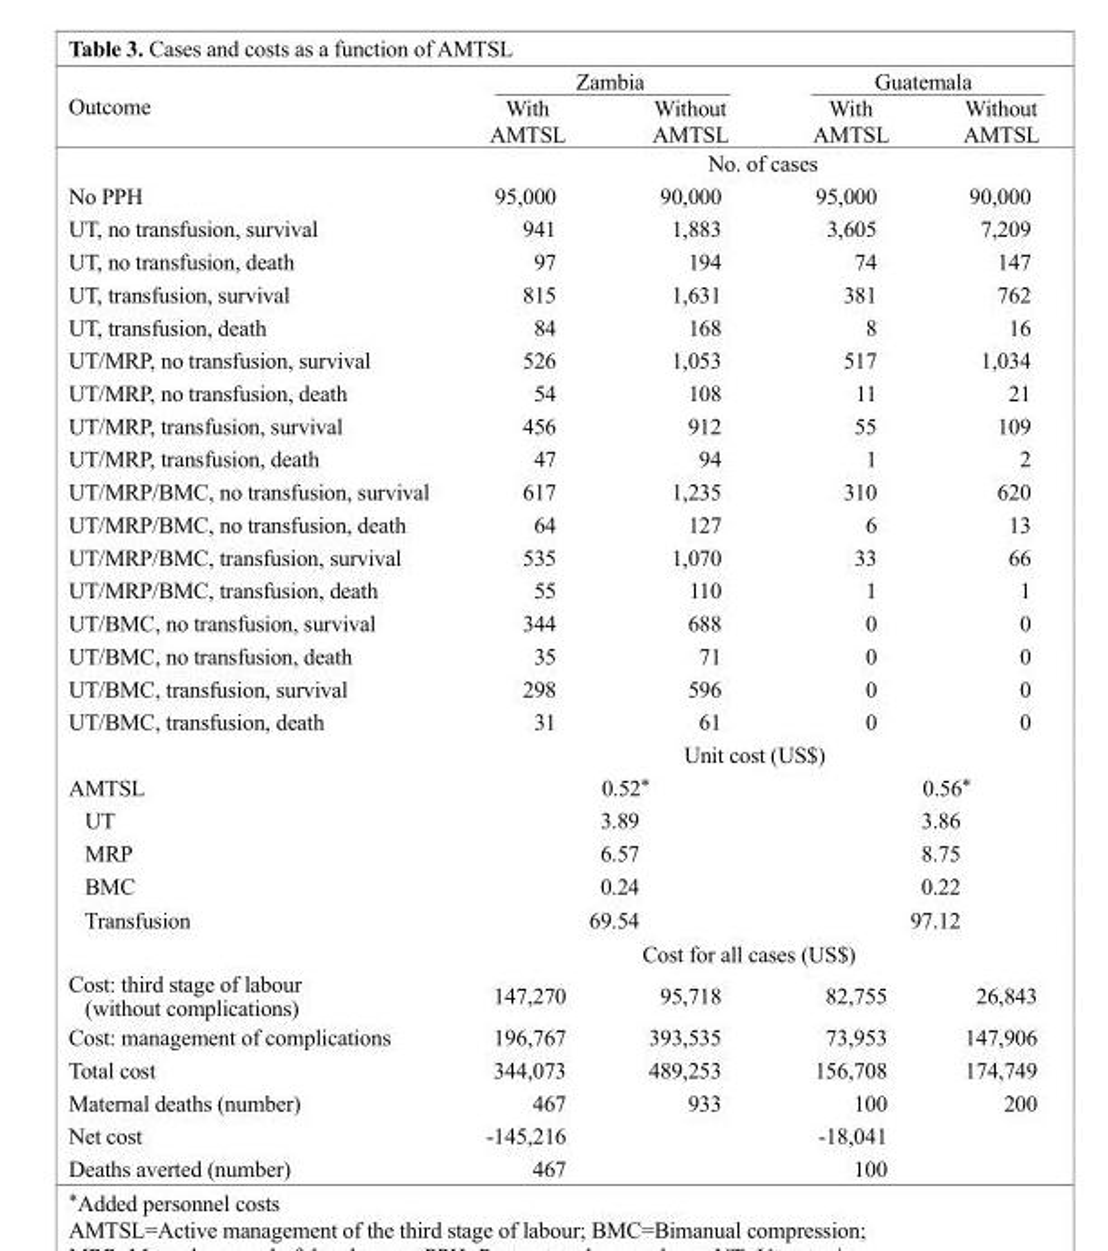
<table><thead><tr><td rowspan="2">Outcome</td><td colspan="2">Zambia</td><td colspan="2">Guatemala</td></tr><tr><td>With AMTSL</td><td>Without AMTSL</td><td>With AMTSL</td><td>Without AMTSL</td></tr></thead><tbody><tr><td></td><td colspan="4">No. of cases</td></tr><tr><td>No PPH</td><td>95,000</td><td>90,000</td><td>95,000</td><td>90,000</td></tr><tr><td>UT, no transfusion, survival</td><td>941</td><td>1,883</td><td>3,605</td><td>7,209</td></tr><tr><td>UT, no transfusion, death</td><td>97</td><td>194</td><td>74</td><td>147</td></tr><tr><td>UT, transfusion, survival</td><td>815</td><td>1,631</td><td>381</td><td>762</td></tr><tr><td>UT, transfusion, death</td><td>84</td><td>168</td><td>8</td><td>16</td></tr><tr><td>UT/MRP, no transfusion, survival</td><td>526</td><td>1,053</td><td>517</td><td>1,034</td></tr><tr><td>UT/MRP, no transfusion, death</td><td>54</td><td>108</td><td>11</td><td>21</td></tr><tr><td>UT/MRP, transfusion, survival</td><td>456</td><td>912</td><td>55</td><td>109</td></tr><tr><td>UT/MRP, transfusion, death</td><td>47</td><td>94</td><td>1</td><td>2</td></tr><tr><td>UT/MRP/BMC, no transfusion, survival</td><td>617</td><td>1,235</td><td>310</td><td>620</td></tr><tr><td>UT/MRP/BMC, no transfusion, death</td><td>64</td><td>127</td><td>6</td><td>13</td></tr><tr><td>UT/MRP/BMC, transfusion, survival</td><td>535</td><td>1,070</td><td>33</td><td>66</td></tr><tr><td>UT/MRP/BMC, transfusion, death</td><td>55</td><td>110</td><td>1</td><td>1</td></tr><tr><td>UT/BMC, no transfusion, survival</td><td>344</td><td>688</td><td>0</td><td>0</td></tr><tr><td>UT/BMC, no transfusion, death</td><td>35</td><td>71</td><td>0</td><td>0</td></tr><tr><td>UT/BMC, transfusion, survival</td><td>298</td><td>596</td><td>0</td><td>0</td></tr><tr><td rowspan="2">UT/BMC, transfusion, death</td><td>31</td><td>61</td><td>0</td><td>0</td></tr><tr><td colspan="4">Unit cost (US$)</td></tr><tr><td>AMTSL</td><td colspan="2">0.52*</td><td colspan="2">0.56*</td></tr><tr><td>UT</td><td colspan="2">3.89</td><td colspan="2">3.86</td></tr><tr><td>MRP</td><td colspan="2">6.57</td><td colspan="2">8.75</td></tr><tr><td>BMC</td><td colspan="2">0.24</td><td colspan="2">0.22</td></tr><tr><td rowspan="2">Transfusion</td><td colspan="2">69.54</td><td colspan="2">97.12</td></tr><tr><td colspan="4">Cost for all cases (US$)</td></tr><tr><td>Cost: third stage of labour (without complications)</td><td>147,270</td><td>95,718</td><td>82,755</td><td>26,843</td></tr><tr><td>Cost: management of complications</td><td>196,767</td><td>393,535</td><td>73,953</td><td>147,906</td></tr><tr><td>Total cost</td><td>344,073</td><td>489,253</td><td>156,708</td><td>174,749</td></tr><tr><td>Maternal deaths (number)</td><td>467</td><td>933</td><td>100</td><td>200</td></tr><tr><td>Net cost</td><td>-145,216</td><td></td><td>-18,041</td><td></td></tr><tr><td>Deaths averted (number)</td><td>467</td><td></td><td>100</td><td></td></tr></tbody></table>